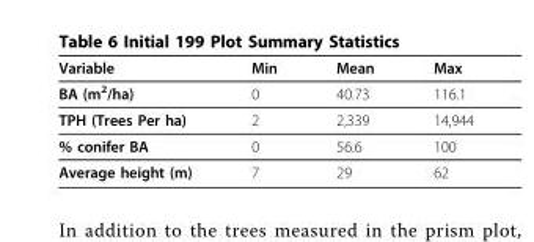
<table><thead><tr><td>Variable</td><td>Min</td><td>Mean</td><td>Max</td></tr></thead><tbody><tr><td>BA (m<sup>2</sup>/ha)</td><td>0</td><td>40.73</td><td>116.1</td></tr><tr><td>TPH (Trees Per ha)</td><td>2</td><td>2,339</td><td>14,944</td></tr><tr><td>% conifer BA</td><td>0</td><td>56.6</td><td>100</td></tr><tr><td>Average height (m)</td><td>7</td><td>29</td><td>62</td></tr></tbody></table>